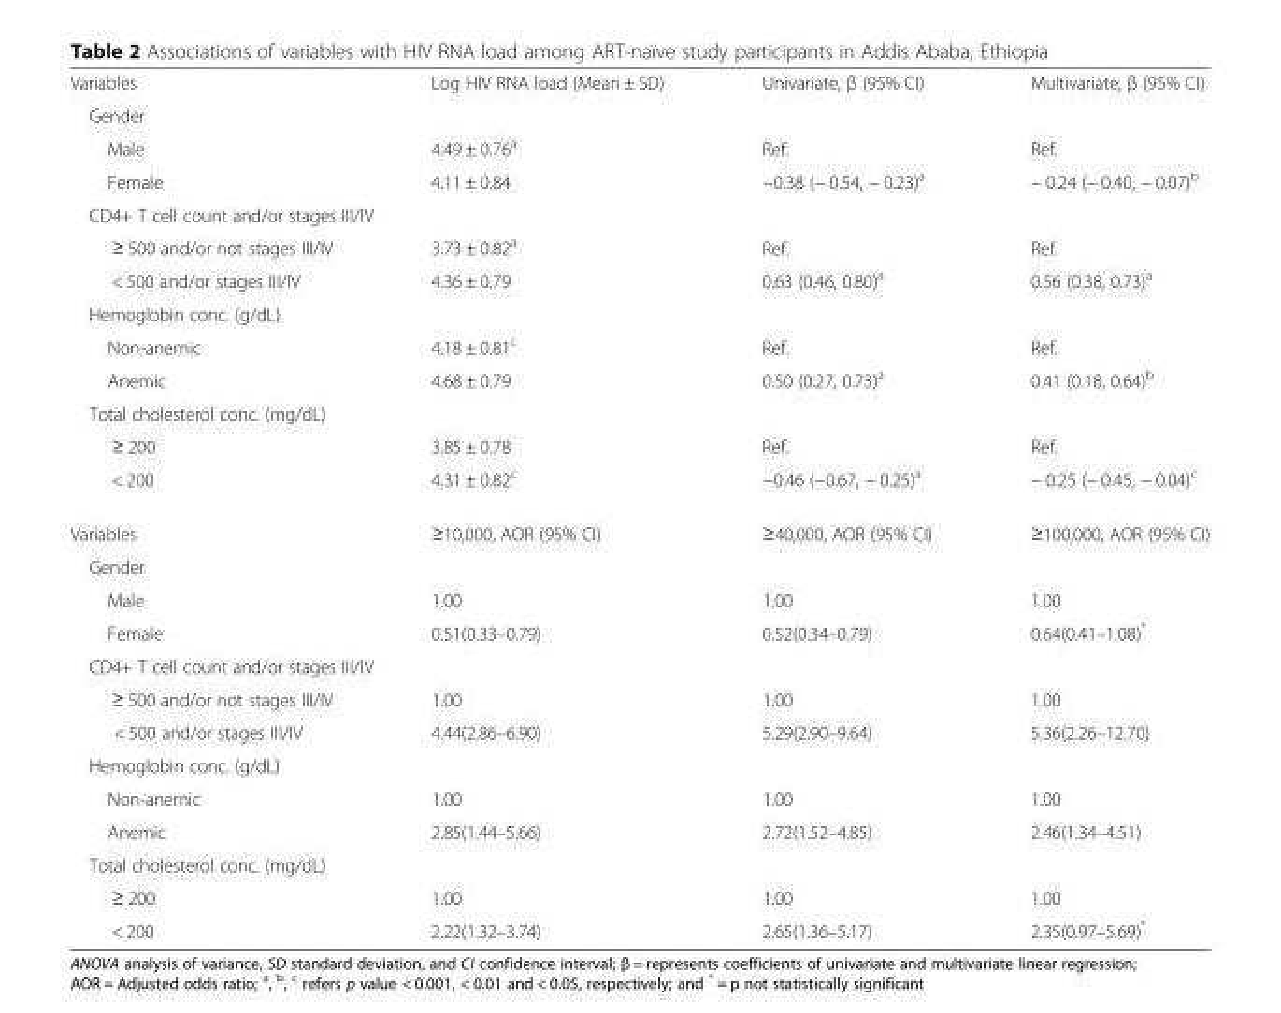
<table><tbody><tr><td>Variables</td><td>Log HIV RNA load (Mean ± SD)</td><td>Univariate, β (95% CI)</td><td>Multivariate, β (95% CI)</td></tr><tr><td colspan="4">Gender</td></tr><tr><td>Male</td><td>4.49 ± 0.76<sup>a</sup></td><td>Ref.</td><td>Ref.</td></tr><tr><td>Female</td><td>4.11 ± 0.84</td><td>−0.38 (− 0.54, − 0.23)<sup>a</sup></td><td>− 0.24 (− 0.40, − 0.07)<sup>b</sup></td></tr><tr><td colspan="4">CD4+ T cell count and/or stages III/IV</td></tr><tr><td>≥ 500 and/or not stages III/IV</td><td>3.73 ± 0.82<sup>a</sup></td><td>Ref.</td><td>Ref.</td></tr><tr><td>&lt; 500 and/or stages III/IV</td><td>4.36 ± 0.79</td><td>0.63 (0.46, 0.80)<sup>a</sup></td><td>0.56 (0.38, 0.73)<sup>a</sup></td></tr><tr><td colspan="4">Hemoglobin conc. (g/dL)</td></tr><tr><td>Non-anemic</td><td>4.18 ± 0.81<sup>c</sup></td><td>Ref.</td><td>Ref.</td></tr><tr><td>Anemic</td><td>4.68 ± 0.79</td><td>0.50 (0.27, 0.73)<sup>a</sup></td><td>0.41 (0.18, 0.64)<sup>b</sup></td></tr><tr><td colspan="4">Total cholesterol conc. (mg/dL)</td></tr><tr><td>≥ 200</td><td>3.85 ± 0.78</td><td>Ref.</td><td>Ref.</td></tr><tr><td>&lt; 200</td><td>4.31 ± 0.82<sup>c</sup></td><td>−0.46 (−0.67, − 0.25)<sup>a</sup></td><td>− 0.25 (− 0.45, − 0.04)<sup>c</sup></td></tr><tr><td>Variables</td><td>≥10,000, AOR (95% CI)</td><td>≥40,000, AOR (95% CI)</td><td>≥100,000, AOR (95% CI)</td></tr><tr><td colspan="4">Gender</td></tr><tr><td>Male</td><td>1.00</td><td>1.00</td><td>1.00</td></tr><tr><td>Female</td><td>0.51(0.33–0.79)</td><td>0.52(0.34–0.79)</td><td>0.64(0.41–1.08)*</td></tr><tr><td colspan="4">CD4+ T cell count and/or stages III/IV</td></tr><tr><td>≥ 500 and/or not stages III/IV</td><td>1.00</td><td>1.00</td><td>1.00</td></tr><tr><td>&lt; 500 and/or stages III/IV</td><td>4.44(2.86–6.90)</td><td>5.29(2.90–9.64)</td><td>5.36(2.26–12.70)</td></tr><tr><td colspan="4">Hemoglobin conc. (g/dL)</td></tr><tr><td>Non-anemic</td><td>1.00</td><td>1.00</td><td>1.00</td></tr><tr><td>Anemic</td><td>2.85(1.44–5.66)</td><td>2.72(1.52–4.85)</td><td>2.46(1.34–4.51)</td></tr><tr><td colspan="4">Total cholesterol conc. (mg/dL)</td></tr><tr><td>≥ 200</td><td>1.00</td><td>1.00</td><td>1.00</td></tr><tr><td>&lt; 200</td><td>2.22(1.32–3.74)</td><td>2.65(1.36–5.17)</td><td>2.35(0.97–5.69)*</td></tr></tbody></table>